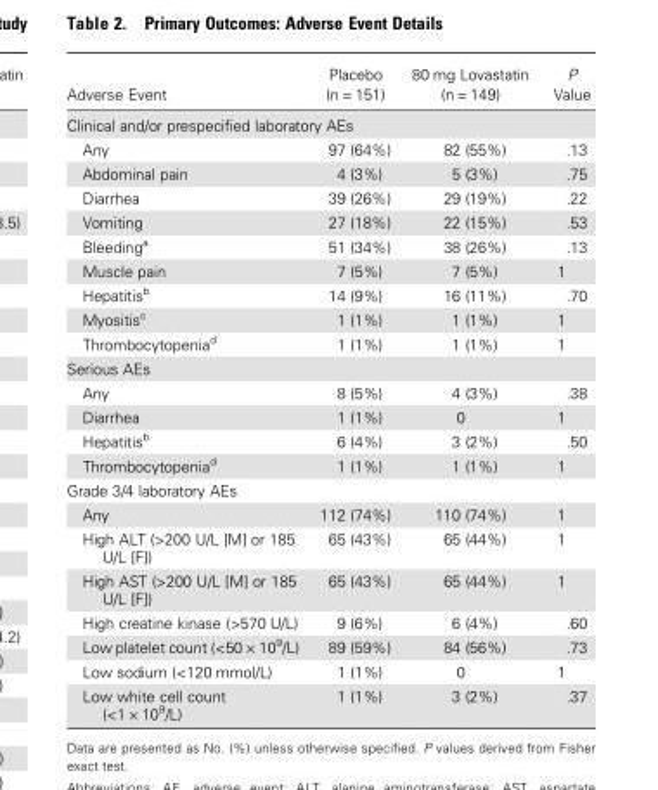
<table><thead><tr><td>Adverse Event</td><td>Placebo (n = 151)</td><td>80 mg Lovastatin (n = 149)</td><td>P Value</td></tr></thead><tbody><tr><td colspan="4">Clinical and/or prespecified laboratory AEs</td></tr><tr><td>Any</td><td>97 (64%)</td><td>82 (55%)</td><td>.13</td></tr><tr><td>Abdominal pain</td><td>4 (3%)</td><td>5 (3%)</td><td>.75</td></tr><tr><td>Diarrhea</td><td>39 (26%)</td><td>29 (19%)</td><td>.22</td></tr><tr><td>Vomiting</td><td>27 (18%)</td><td>22 (15%)</td><td>.53</td></tr><tr><td>Bleeding<sup>a</sup></td><td>51 (34%)</td><td>38 (26%)</td><td>.13</td></tr><tr><td>Muscle pain</td><td>7 (5%)</td><td>7 (5%)</td><td>1</td></tr><tr><td>Hepatitis<sup>b</sup></td><td>14 (9%)</td><td>16 (11%)</td><td>.70</td></tr><tr><td>Myositis<sup>c</sup></td><td>1 (1%)</td><td>1 (1%)</td><td>1</td></tr><tr><td>Thrombocytopenia<sup>d</sup></td><td>1 (1%)</td><td>1 (1%)</td><td>1</td></tr><tr><td colspan="4">Serious AEs</td></tr><tr><td>Any</td><td>8 (5%)</td><td>4 (3%)</td><td>.38</td></tr><tr><td>Diarrhea</td><td>1 (1%)</td><td>0</td><td>1</td></tr><tr><td>Hepatitis<sup>b</sup></td><td>6 (4%)</td><td>3 (2%)</td><td>.50</td></tr><tr><td>Thrombocytopenia<sup>d</sup></td><td>1 (1%)</td><td>1 (1%)</td><td>1</td></tr><tr><td colspan="4">Grade 3/4 laboratory AEs</td></tr><tr><td>Any</td><td>112 (74%)</td><td>110 (74%)</td><td>1</td></tr><tr><td>High ALT (&gt;200 U/L [M] or 185 U/L [F])</td><td>65 (43%)</td><td>65 (44%)</td><td>1</td></tr><tr><td>High AST (&gt;200 U/L [M] or 185 U/L [F])</td><td>65 (43%)</td><td>65 (44%)</td><td>1</td></tr><tr><td>High creatine kinase (&gt;570 U/L)</td><td>9 (6%)</td><td>6 (4%)</td><td>.60</td></tr><tr><td>Low platelet count (&lt;50 × 10<sup>9</sup>/L)</td><td>89 (59%)</td><td>84 (56%)</td><td>.73</td></tr><tr><td>Low sodium (&lt;120 mmol/L)</td><td>1 (1%)</td><td>0</td><td>1</td></tr><tr><td>Low white cell count (&lt;1 × 10<sup>9</sup>/L)</td><td>1 (1%)</td><td>3 (2%)</td><td>.37</td></tr></tbody></table>